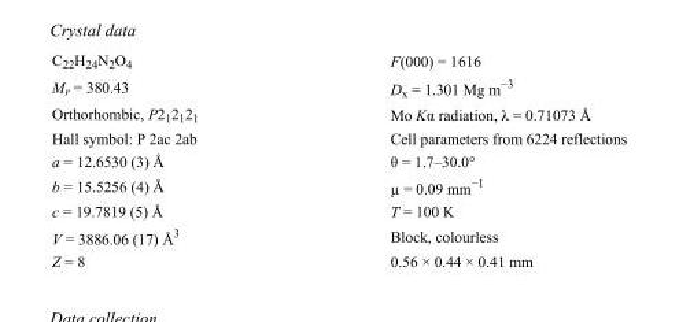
<table><tbody><tr><td>C<sub>22</sub>H<sub>24</sub>N<sub>2</sub>O<sub>4</sub></td><td>F(000) = 1616</td></tr><tr><td>M<sub>r</sub> = 380.43</td><td>D<sub>x</sub> = 1.301 Mg m<sup>−3</sup></td></tr><tr><td>Orthorhombic, P2<sub>1</sub>2<sub>1</sub>2<sub>1</sub></td><td>Mo Kα radiation, λ = 0.71073 Å</td></tr><tr><td>Hall symbol: P 2ac 2ab</td><td>Cell parameters from 6224 reflections</td></tr><tr><td>a = 12.6530 (3) Å</td><td>θ = 1.7–30.0°</td></tr><tr><td>b = 15.5256 (4) Å</td><td>µ = 0.09 mm<sup>−1</sup></td></tr><tr><td>c = 19.7819 (5) Å</td><td>T = 100 K</td></tr><tr><td>V = 3886.06 (17) Å<sup>3</sup></td><td>Block, colourless</td></tr><tr><td>Z = 8</td><td>0.56 × 0.44 × 0.41 mm</td></tr></tbody></table>